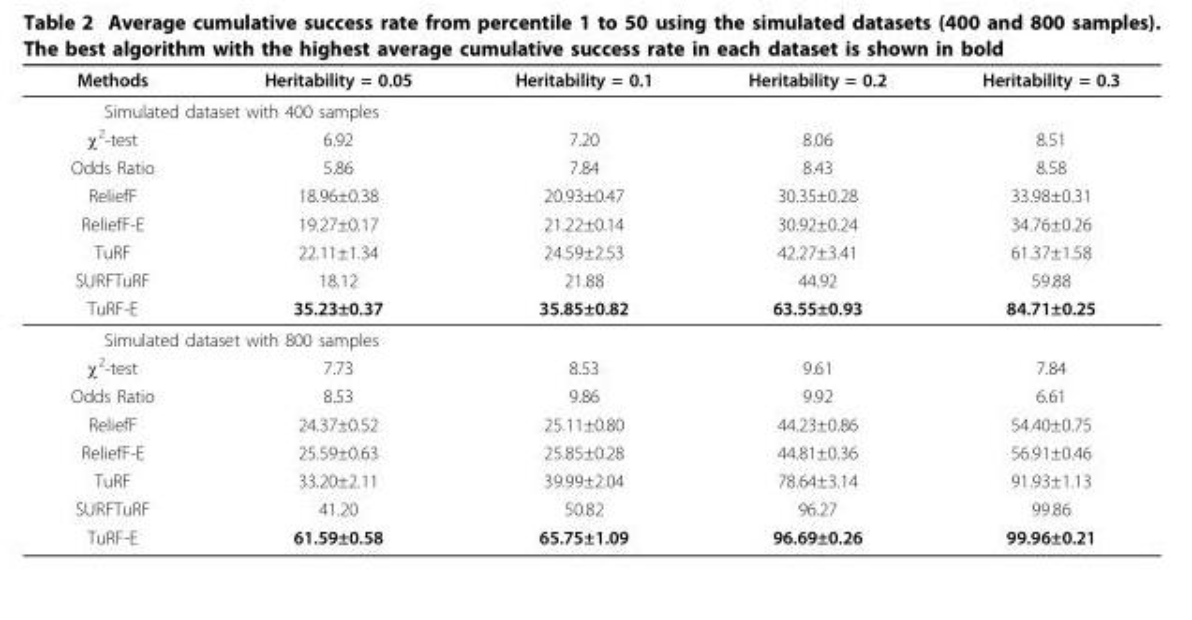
<table><thead><tr><td>Methods</td><td>Heritability = 0.05</td><td>Heritability = 0.1</td><td>Heritability = 0.2</td><td>Heritability = 0.3</td></tr></thead><tbody><tr><td colspan="5">Simulated dataset with 400 samples</td></tr><tr><td>χ<sup>2</sup>-test</td><td>6.92</td><td>7.20</td><td>8.06</td><td>8.51</td></tr><tr><td>Odds Ratio</td><td>5.86</td><td>7.84</td><td>8.43</td><td>8.58</td></tr><tr><td>ReliefF</td><td>18.96±0.38</td><td>20.93±0.47</td><td>30.35±0.28</td><td>33.98±0.31</td></tr><tr><td>ReliefF-E</td><td>19.27±0.17</td><td>21.22±0.14</td><td>30.92±0.24</td><td>34.76±0.26</td></tr><tr><td>TuRF</td><td>22.11±1.34</td><td>24.59±2.53</td><td>42.27±3.41</td><td>61.37±1.58</td></tr><tr><td>SURFTuRF</td><td>18.12</td><td>21.88</td><td>44.92</td><td>59.88</td></tr><tr><td>TuRF-E</td><td>35.23±0.37</td><td>35.85±0.82</td><td>63.55±0.93</td><td>84.71±0.25</td></tr><tr><td colspan="5">Simulated dataset with 800 samples</td></tr><tr><td>χ<sup>2</sup>-test</td><td>7.73</td><td>8.53</td><td>9.61</td><td>7.84</td></tr><tr><td>Odds Ratio</td><td>8.53</td><td>9.86</td><td>9.92</td><td>6.61</td></tr><tr><td>ReliefF</td><td>24.37±0.52</td><td>25.11±0.80</td><td>44.23±0.86</td><td>54.40±0.75</td></tr><tr><td>ReliefF-E</td><td>25.59±0.63</td><td>25.85±0.28</td><td>44.81±0.36</td><td>56.91±0.46</td></tr><tr><td>TuRF</td><td>33.20±2.11</td><td>39.99±2.04</td><td>78.64±3.14</td><td>91.93±1.13</td></tr><tr><td>SURFTuRF</td><td>41.20</td><td>50.82</td><td>96.27</td><td>99.86</td></tr><tr><td>TuRF-E</td><td>61.59±0.58</td><td>65.75±1.09</td><td>96.69±0.26</td><td>99.96±0.21</td></tr></tbody></table>